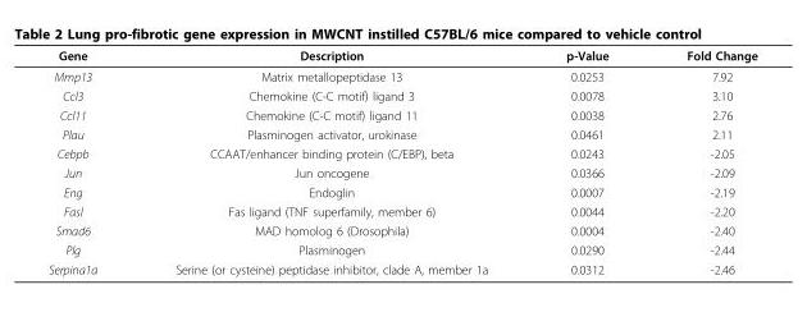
<table><thead><tr><td>Gene</td><td>Description</td><td>p-Value</td><td>Fold Change</td></tr></thead><tbody><tr><td>Mmp13</td><td>Matrix metallopeptidase 13</td><td>0.0253</td><td>7.92</td></tr><tr><td>Ccl3</td><td>Chemokine (C-C motif) ligand 3</td><td>0.0078</td><td>3.10</td></tr><tr><td>Ccl11</td><td>Chemokine (C-C motif) ligand 11</td><td>0.0038</td><td>2.76</td></tr><tr><td>Plau</td><td>Plasminogen activator, urokinase</td><td>0.0461</td><td>2.11</td></tr><tr><td>Cebpb</td><td>CCAAT/enhancer binding protein (C/EBP), beta</td><td>0.0243</td><td>-2.05</td></tr><tr><td>Jun</td><td>Jun oncogene</td><td>0.0366</td><td>-2.09</td></tr><tr><td>Eng</td><td>Endoglin</td><td>0.0007</td><td>-2.19</td></tr><tr><td>Fasl</td><td>Fas ligand (TNF superfamily, member 6)</td><td>0.0044</td><td>-2.20</td></tr><tr><td>Smad6</td><td>MAD homolog 6 (Drosophila)</td><td>0.0004</td><td>-2.40</td></tr><tr><td>Plg</td><td>Plasminogen</td><td>0.0290</td><td>-2.44</td></tr><tr><td>Serpina1a</td><td>Serine (or cysteine) peptidase inhibitor, clade A, member 1a</td><td>0.0312</td><td>-2.46</td></tr></tbody></table>